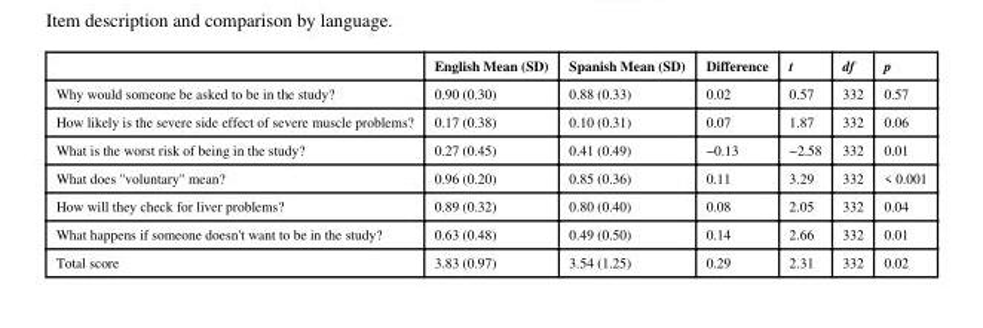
<table><thead><tr><td></td><td>English Mean (SD)</td><td>Spanish Mean (SD)</td><td>Difference</td><td>t</td><td>df</td><td>p</td></tr></thead><tbody><tr><td>Why would someone be asked to be in the study?</td><td>0.90 (0.30)</td><td>0.88 (0.33)</td><td>0.02</td><td>0.57</td><td>332</td><td>0.57</td></tr><tr><td>How likely is the severe side effect of severe muscle problems?</td><td>0.17 (0.38)</td><td>0.10 (0.31)</td><td>0.07</td><td>1.87</td><td>332</td><td>0.06</td></tr><tr><td>What is the worst risk of being in the study?</td><td>0.27 (0.45)</td><td>0.41 (0.49)</td><td>−0.13</td><td>−2.58</td><td>332</td><td>0.01</td></tr><tr><td>What does &quot;voluntary&quot; mean?</td><td>0.96 (0.20)</td><td>0.85 (0.36)</td><td>0.11</td><td>3.29</td><td>332</td><td>&lt; 0.001</td></tr><tr><td>How will they check for liver problems?</td><td>0.89 (0.32)</td><td>0.80 (0.40)</td><td>0.08</td><td>2.05</td><td>332</td><td>0.04</td></tr><tr><td>What happens if someone doesn&#x27;t want to be in the study?</td><td>0.63 (0.48)</td><td>0.49 (0.50)</td><td>0.14</td><td>2.66</td><td>332</td><td>0.01</td></tr><tr><td>Total score</td><td>3.83 (0.97)</td><td>3.54 (1.25)</td><td>0.29</td><td>2.31</td><td>332</td><td>0.02</td></tr></tbody></table>